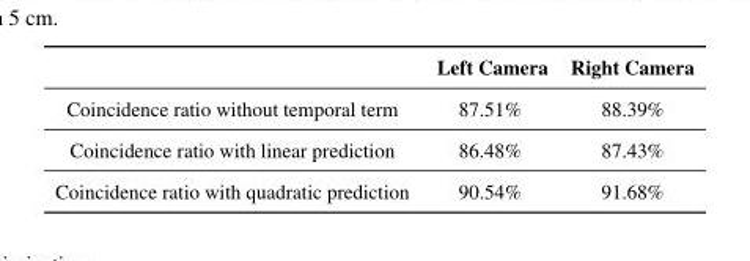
<table><thead><tr><td></td><td>Left Camera</td><td>Right Camera</td></tr></thead><tbody><tr><td>Coincidence ratio without temporal term</td><td>87.51%</td><td>88.39%</td></tr><tr><td>Coincidence ratio with linear prediction</td><td>86.48%</td><td>87.43%</td></tr><tr><td>Coincidence ratio with quadratic prediction</td><td>90.54%</td><td>91.68%</td></tr></tbody></table>